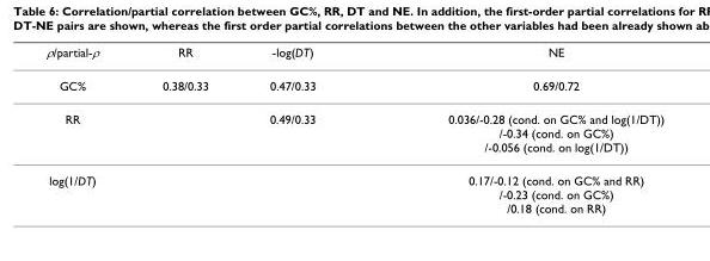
<table><thead><tr><td>ρ/partial-ρ</td><td>RR</td><td>-log(DT)</td><td>NE</td></tr></thead><tbody><tr><td>GC%</td><td>0.38/0.33</td><td>0.47/0.33</td><td>0.69/0.72</td></tr><tr><td>RR</td><td></td><td>0.49/0.33</td><td>0.036/-0.28 (cond. on GC% and log(1/DT)) /-0.34 (cond. on GC%) /-0.056 (cond. on log(1/DT))</td></tr><tr><td>log(1/DT)</td><td></td><td></td><td>0.17/-0.12 (cond. on GC% and RR) /-0.23 (cond. on GC%) /0.18 (cond. on RR)</td></tr></tbody></table>